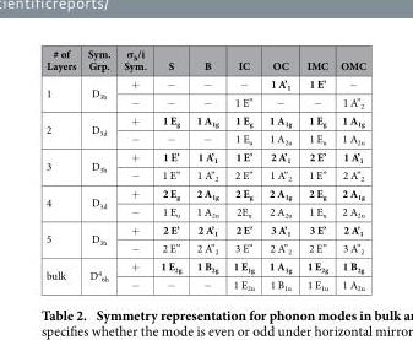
<table><thead><tr><td># of Layers</td><td>Sym. Grp.</td><td>σ<sub>h</sub>/i Sym.</td><td>S</td><td>B</td><td>IC</td><td>OC</td><td>IMC</td><td>OMC</td></tr></thead><tbody><tr><td rowspan="2">1</td><td rowspan="2">D<sub>3h</sub></td><td>+</td><td>−</td><td>−</td><td>−</td><td>1 A’<sub>1</sub></td><td>1 E’</td><td>−</td></tr><tr><td>−</td><td>−</td><td>−</td><td>1 E”</td><td>−</td><td>−</td><td>1 A”<sub>2</sub></td></tr><tr><td rowspan="2">2</td><td rowspan="2">D<sub>3d</sub></td><td>+</td><td>1 E<sub>g</sub></td><td>1 A<sub>1g</sub></td><td>1 E<sub>g</sub></td><td>1 A<sub>1g</sub></td><td>1 E<sub>g</sub></td><td>1 A<sub>1g</sub></td></tr><tr><td>−</td><td>−</td><td>−</td><td>1 E<sub>u</sub></td><td>1 A<sub>2u</sub></td><td>1 E<sub>u</sub></td><td>1 A<sub>2u</sub></td></tr><tr><td rowspan="2">3</td><td rowspan="2">D<sub>3h</sub></td><td>+</td><td>1 E’</td><td>1 A’<sub>1</sub></td><td>1 E’</td><td>2 A’<sub>1</sub></td><td>2 E’</td><td>1 A’<sub>1</sub></td></tr><tr><td>−</td><td>1 E”</td><td>1 A”<sub>2</sub></td><td>2 E”</td><td>1 A”<sub>2</sub></td><td>1 E”</td><td>2 A”<sub>2</sub></td></tr><tr><td rowspan="2">4</td><td rowspan="2">D<sub>3d</sub></td><td>+</td><td>2 E<sub>g</sub></td><td>2 A<sub>1g</sub></td><td>2 E<sub>g</sub></td><td>2 A<sub>1g</sub></td><td>2 E<sub>g</sub></td><td>2 A<sub>1g</sub></td></tr><tr><td>−</td><td>1 E<sub>u</sub></td><td>1 A<sub>2u</sub></td><td>2E<sub>u</sub></td><td>2 A<sub>2u</sub></td><td>1 E<sub>u</sub></td><td>2 A<sub>2u</sub></td></tr><tr><td rowspan="2">5</td><td rowspan="2">D<sub>3h</sub></td><td>+</td><td>2 E’</td><td>2 A’<sub>1</sub></td><td>2 E’</td><td>3 A’<sub>1</sub></td><td>3 E’</td><td>2 A’<sub>1</sub></td></tr><tr><td>−</td><td>2 E”</td><td>2 A”<sub>2</sub></td><td>3 E”</td><td>2 A”<sub>2</sub></td><td>2 E”</td><td>3 A”<sub>2</sub></td></tr><tr><td rowspan="2">bulk</td><td rowspan="2">D<sup>4</sup> <sub>6h</sub></td><td>+</td><td>1 E<sub>2g</sub></td><td>1 B<sub>2g</sub></td><td>1 E<sub>1g</sub></td><td>1 A<sub>1g</sub></td><td>1 E<sub>2g</sub></td><td>1 B<sub>2g</sub></td></tr><tr><td>−</td><td>−</td><td>−</td><td>1 E<sub>2u</sub></td><td>1 B<sub>1u</sub></td><td>1 E<sub>1u</sub></td><td>1 A<sub>2u</sub></td></tr></tbody></table>